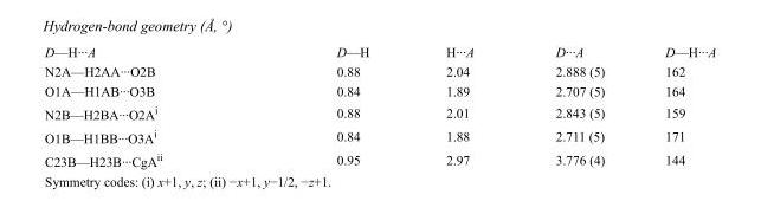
<table><tbody><tr><td>D—H···A</td><td>D—H</td><td>H···A</td><td>D···A</td><td>D—H···A</td></tr><tr><td>N2A—H2AA···O2B</td><td>0.88</td><td>2.04</td><td>2.888 (5)</td><td>162</td></tr><tr><td>O1A—H1AB···O3B</td><td>0.84</td><td>1.89</td><td>2.707 (5)</td><td>164</td></tr><tr><td>N2B—H2BA···O2A<sup>i</sup></td><td>0.88</td><td>2.01</td><td>2.843 (5)</td><td>159</td></tr><tr><td>O1B—H1BB···O3A<sup>i</sup></td><td>0.84</td><td>1.88</td><td>2.711 (5)</td><td>171</td></tr><tr><td>C23B—H23B···CgA<sup>ii</sup></td><td>0.95</td><td>2.97</td><td>3.776 (4)</td><td>144</td></tr></tbody></table>